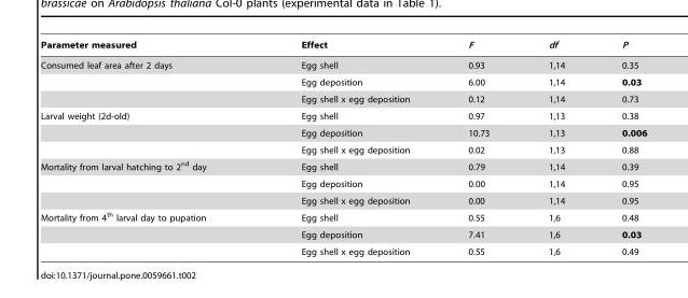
<table><thead><tr><td>Parameter measured</td><td>Effect</td><td>F</td><td>df</td><td>P</td></tr></thead><tbody><tr><td rowspan="3">Consumed leaf area after 2 days</td><td>Egg shell</td><td>0.93</td><td>1,14</td><td>0.35</td></tr><tr><td>Egg deposition</td><td>6.00</td><td>1,14</td><td>0.03</td></tr><tr><td>Egg shell x egg deposition</td><td>0.12</td><td>1,14</td><td>0.73</td></tr><tr><td rowspan="3">Larval weight (2d-old)</td><td>Egg shell</td><td>0.97</td><td>1,13</td><td>0.38</td></tr><tr><td>Egg deposition</td><td>10.73</td><td>1,13</td><td>0.006</td></tr><tr><td>Egg shell x egg deposition</td><td>0.02</td><td>1,13</td><td>0.88</td></tr><tr><td rowspan="3">Mortality from larval hatching to 2<sup>nd</sup> day</td><td>Egg shell</td><td>0.79</td><td>1,14</td><td>0.39</td></tr><tr><td>Egg deposition</td><td>0.00</td><td>1,14</td><td>0.95</td></tr><tr><td>Egg shell x egg deposition</td><td>0.00</td><td>1,14</td><td>0.95</td></tr><tr><td rowspan="3">Mortality from 4<sup>th</sup> larval day to pupation</td><td>Egg shell</td><td>0.55</td><td>1,6</td><td>0.48</td></tr><tr><td>Egg deposition</td><td>7.41</td><td>1,6</td><td>0.03</td></tr><tr><td>Egg shell x egg deposition</td><td>0.55</td><td>1,6</td><td>0.49</td></tr></tbody></table>